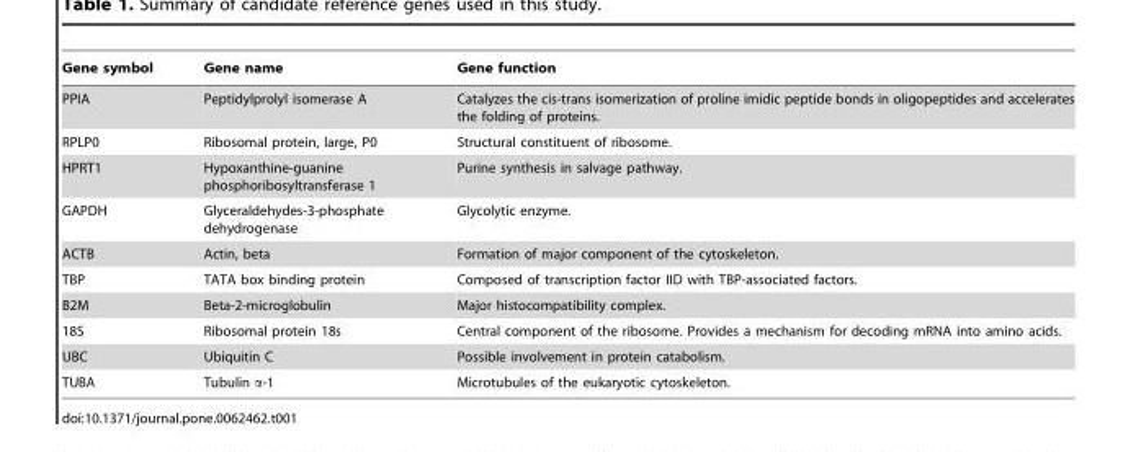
<table><thead><tr><td>Gene symbol</td><td>Gene name</td><td>Gene function</td></tr></thead><tbody><tr><td>PPIA</td><td>Peptidylprolyl isomerase A</td><td>Catalyzes the cis-trans isomerization of proline imidic peptide bonds in oligopeptides and accelerates the folding of proteins.</td></tr><tr><td>RPLP0</td><td>Ribosomal protein, large, P0</td><td>Structural constituent of ribosome.</td></tr><tr><td>HPRT1</td><td>Hypoxanthine-guanine phosphoribosyltransferase 1</td><td>Purine synthesis in salvage pathway.</td></tr><tr><td>GAPDH</td><td>Glyceraldehydes-3-phosphate dehydrogenase</td><td>Glycolytic enzyme.</td></tr><tr><td>ACTB</td><td>Actin, beta</td><td>Formation of major component of the cytoskeleton.</td></tr><tr><td>TBP</td><td>TATA box binding protein</td><td>Composed of transcription factor IID with TBP-associated factors.</td></tr><tr><td>B2M</td><td>Beta-2-microglobulin</td><td>Major histocompatibility complex.</td></tr><tr><td>18S</td><td>Ribosomal protein 18s</td><td>Central component of the ribosome. Provides a mechanism for decoding mRNA into amino acids.</td></tr><tr><td>UBC</td><td>Ubiquitin C</td><td>Possible involvement in protein catabolism.</td></tr><tr><td>TUBA</td><td>Tubulin α-1</td><td>Microtubules of the eukaryotic cytoskeleton.</td></tr></tbody></table>